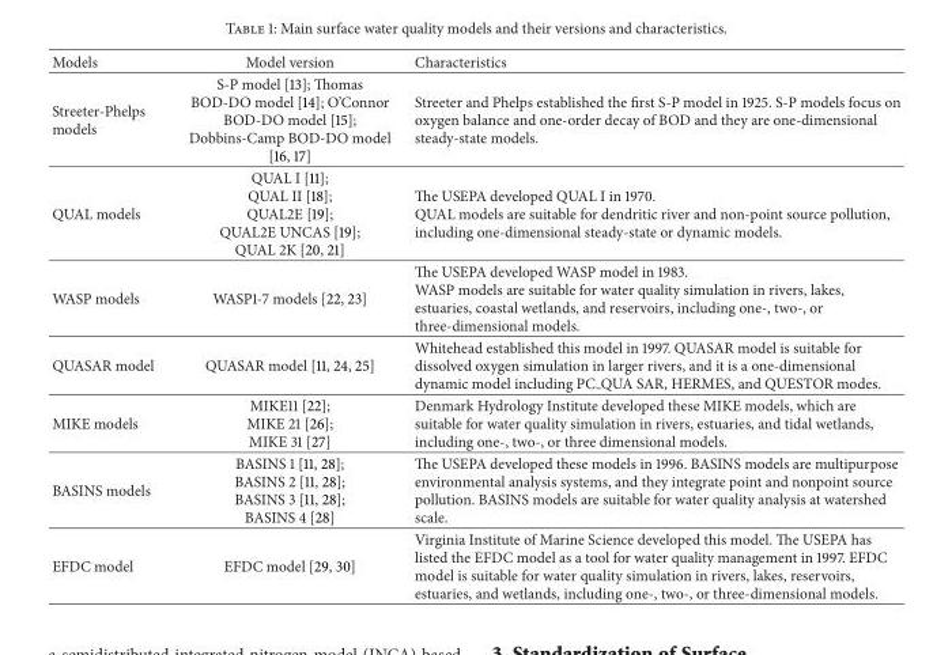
<table><thead><tr><td>Models</td><td>Model version</td><td>Characteristics</td></tr></thead><tbody><tr><td>Streeter-Phelps models</td><td>S-P model [13]; Thomas BOD-DO model [14]; O’Connor BOD-DO model [15]; Dobbins-Camp BOD-DO model [16, 17]</td><td>Streeter and Phelps established the first S-P model in 1925. S-P models focus on oxygen balance and one-order decay of BOD and they are one-dimensional steady-state models.</td></tr><tr><td>QUAL models</td><td>QUAL I [11]; QUAL II [18]; QUAL2E [19]; QUAL2E UNCAS [19]; QUAL 2K [20, 21]</td><td>The USEPA developed QUAL I in 1970. QUAL models are suitable for dendritic river and non-point source pollution, including one-dimensional steady-state or dynamic models.</td></tr><tr><td>WASP models</td><td>WASP1-7 models [22, 23]</td><td>The USEPA developed WASP model in 1983. WASP models are suitable for water quality simulation in rivers, lakes, estuaries, coastal wetlands, and reservoirs, including one-, two-, or three-dimensional models.</td></tr><tr><td>QUASAR model</td><td>QUASAR model [11, 24, 25]</td><td>Whitehead established this model in 1997. QUASAR model is suitable for dissolved oxygen simulation in larger rivers, and it is a one-dimensional dynamic model including PC QUA SAR, HERMES, and QUESTOR modes.</td></tr><tr><td>MIKE models</td><td>MIKE11 [22]; MIKE 21 [26]; MIKE 31 [27]</td><td>Denmark Hydrology Institute developed these MIKE models, which are suitable for water quality simulation in rivers, estuaries, and tidal wetlands, including one-, two-, or three dimensional models.</td></tr><tr><td>BASINS models</td><td>BASINS 1 [11, 28]; BASINS 2 [11, 28]; BASINS 3 [11, 28]; BASINS 4 [28]</td><td>The USEPA developed these models in 1996. BASINS models are multipurpose environmental analysis systems, and they integrate point and nonpoint source pollution. BASINS models are suitable for water quality analysis at watershed scale.</td></tr><tr><td>EFDC model</td><td>EFDC model [29, 30]</td><td>Virginia Institute of Marine Science developed this model. The USEPA has listed the EFDC model as a tool for water quality management in 1997. EFDC model is suitable for water quality simulation in rivers, lakes, reservoirs, estuaries, and wetlands, including one-, two-, or three-dimensional models.</td></tr></tbody></table>